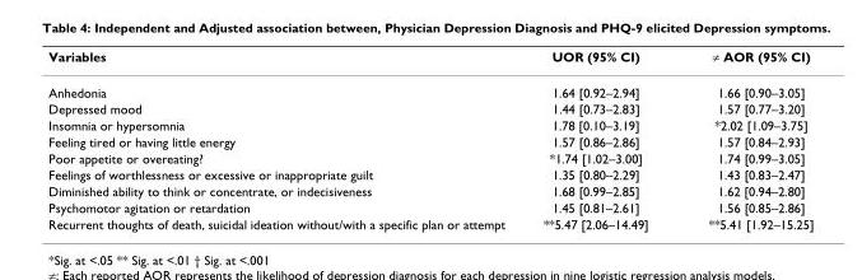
<table><thead><tr><td>Variables</td><td>UOR (95% CI)</td><td>≠ AOR (95% CI)</td></tr></thead><tbody><tr><td>Anhedonia</td><td>1.64 [0.92–2.94]</td><td>1.66 [0.90–3.05]</td></tr><tr><td>Depressed mood</td><td>1.44 [0.73–2.83]</td><td>1.57 [0.77–3.20]</td></tr><tr><td>Insomnia or hypersomnia</td><td>1.78 [0.10–3.19]</td><td>*2.02 [1.09–3.75]</td></tr><tr><td>Feeling tired or having little energy</td><td>1.57 [0.86–2.86]</td><td>1.57 [0.84–2.93]</td></tr><tr><td>Poor appetite or overeating?</td><td>*1.74 [1.02–3.00]</td><td>1.74 [0.99–3.05]</td></tr><tr><td>Feelings of worthlessness or excessive or inappropriate guilt</td><td>1.35 [0.80–2.29]</td><td>1.43 [0.83–2.47]</td></tr><tr><td>Diminished ability to think or concentrate, or indecisiveness</td><td>1.68 [0.99–2.85]</td><td>1.62 [0.94–2.80]</td></tr><tr><td>Psychomotor agitation or retardation</td><td>1.45 [0.81–2.61]</td><td>1.56 [0.85–2.86]</td></tr><tr><td>Recurrent thoughts of death, suicidal ideation without/with a specific plan or attempt</td><td>**5.47 [2.06–14.49]</td><td>**5.41 [1.92–15.25]</td></tr></tbody></table>